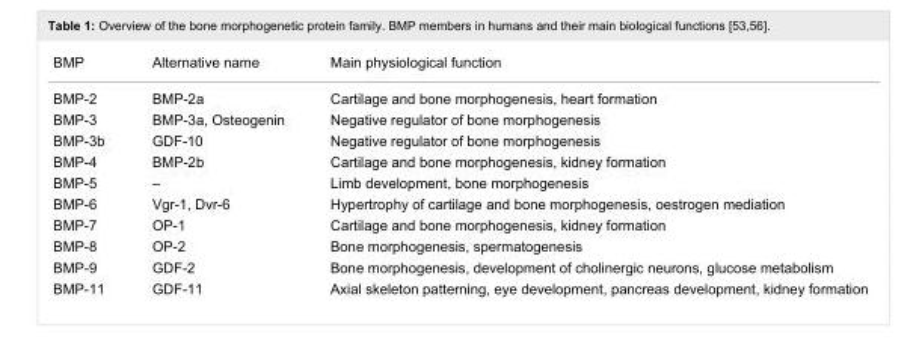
<table><tbody><tr><td>BMP</td><td>Alternative name</td><td>Main physiological function</td></tr><tr><td>BMP-2</td><td>BMP-2a</td><td>Cartilage and bone morphogenesis, heart formation</td></tr><tr><td>BMP-3</td><td>BMP-3a, Osteogenin</td><td>Negative regulator of bone morphogenesis</td></tr><tr><td>BMP-3b</td><td>GDF-10</td><td>Negative regulator of bone morphogenesis</td></tr><tr><td>BMP-4</td><td>BMP-2b</td><td>Cartilage and bone morphogenesis, kidney formation</td></tr><tr><td>BMP-5</td><td>–</td><td>Limb development, bone morphogenesis</td></tr><tr><td>BMP-6</td><td>Vgr-1, Dvr-6</td><td>Hypertrophy of cartilage and bone morphogenesis, oestrogen mediation</td></tr><tr><td>BMP-7</td><td>OP-1</td><td>Cartilage and bone morphogenesis, kidney formation</td></tr><tr><td>BMP-8</td><td>OP-2</td><td>Bone morphogenesis, spermatogenesis</td></tr><tr><td>BMP-9</td><td>GDF-2</td><td>Bone morphogenesis, development of cholinergic neurons, glucose metabolism</td></tr><tr><td>BMP-11</td><td>GDF-11</td><td>Axial skeleton patterning, eye development, pancreas development, kidney formation</td></tr></tbody></table>